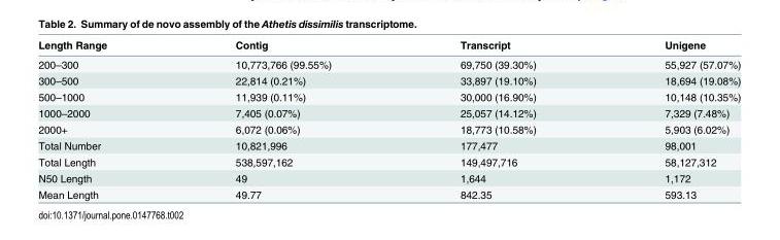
<table><thead><tr><td>Length Range</td><td>Contig</td><td>Transcript</td><td>Unigene</td></tr></thead><tbody><tr><td>200–300</td><td>10,773,766 (99.55%)</td><td>69,750 (39.30%)</td><td>55,927 (57.07%)</td></tr><tr><td>300–500</td><td>22,814 (0.21%)</td><td>33,897 (19.10%)</td><td>18,694 (19.08%)</td></tr><tr><td>500–1000</td><td>11,939 (0.11%)</td><td>30,000 (16.90%)</td><td>10,148 (10.35%)</td></tr><tr><td>1000–2000</td><td>7,405 (0.07%)</td><td>25,057 (14.12%)</td><td>7,329 (7.48%)</td></tr><tr><td>2000+</td><td>6,072 (0.06%)</td><td>18,773 (10.58%)</td><td>5,903 (6.02%)</td></tr><tr><td>Total Number</td><td>10,821,996</td><td>177,477</td><td>98,001</td></tr><tr><td>Total Length</td><td>538,597,162</td><td>149,497,716</td><td>58,127,312</td></tr><tr><td>N50 Length</td><td>49</td><td>1,644</td><td>1,172</td></tr><tr><td>Mean Length</td><td>49.77</td><td>842.35</td><td>593.13</td></tr></tbody></table>